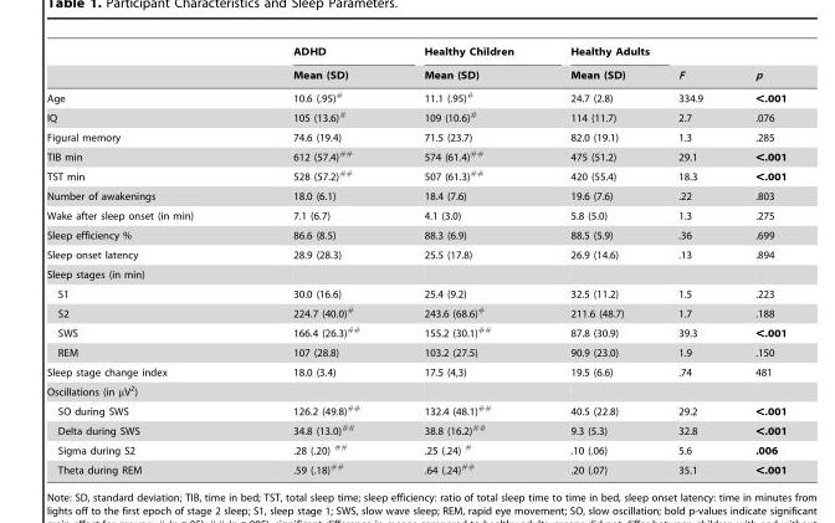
<table><thead><tr><td rowspan="2"></td><td rowspan="2">ADHD Mean (SD)</td><td rowspan="2">Healthy Children Mean (SD)</td><td rowspan="2">Healthy Adults Mean (SD)</td><td rowspan="2">F</td><td rowspan="2">p</td></tr><tr></tr></thead><tbody><tr><td>Age</td><td>10.6 (.95)<sup>#</sup></td><td>11.1 (.95)<sup>#</sup></td><td>24.7 (2.8)</td><td>334.9</td><td>&lt;.001</td></tr><tr><td>IQ</td><td>105 (13.6)<sup>#</sup></td><td>109 (10.6)<sup>#</sup></td><td>114 (11.7)</td><td>2.7</td><td>.076</td></tr><tr><td>Figural memory</td><td>74.6 (19.4)</td><td>71.5 (23.7)</td><td>82.0 (19.1)</td><td>1.3</td><td>.285</td></tr><tr><td>TIB min</td><td>612 (57.4)<sup>##</sup></td><td>574 (61.4)<sup>##</sup></td><td>475 (51.2)</td><td>29.1</td><td>&lt;.001</td></tr><tr><td>TST min</td><td>528 (57.2)<sup>##</sup></td><td>507 (61.3)<sup>##</sup></td><td>420 (55.4)</td><td>18.3</td><td>&lt;.001</td></tr><tr><td>Number of awakenings</td><td>18.0 (6.1)</td><td>18.4 (7.6)</td><td>19.6 (7.6)</td><td>.22</td><td>.803</td></tr><tr><td>Wake after sleep onset (in min)</td><td>7.1 (6.7)</td><td>4.1 (3.0)</td><td>5.8 (5.0)</td><td>1.3</td><td>.275</td></tr><tr><td>Sleep efficiency %</td><td>86.6 (8.5)</td><td>88.3 (6.9)</td><td>88.5 (5.9)</td><td>.36</td><td>.699</td></tr><tr><td>Sleep onset latency</td><td>28.9 (28.3)</td><td>25.5 (17.8)</td><td>26.9 (14.6)</td><td>.13</td><td>.894</td></tr><tr><td colspan="6">Sleep stages (in min)</td></tr><tr><td>S1</td><td>30.0 (16.6)</td><td>25.4 (9.2)</td><td>32.5 (11.2)</td><td>1.5</td><td>.223</td></tr><tr><td>S2</td><td>224.7 (40.0)<sup>#</sup></td><td>243.6 (68.6)<sup>#</sup></td><td>211.6 (48.7)</td><td>1.7</td><td>.188</td></tr><tr><td>SWS</td><td>166.4 (26.3)<sup>##</sup></td><td>155.2 (30.1)<sup>##</sup></td><td>87.8 (30.9)</td><td>39.3</td><td>&lt;.001</td></tr><tr><td>REM</td><td>107 (28.8)</td><td>103.2 (27.5)</td><td>90.9 (23.0)</td><td>1.9</td><td>.150</td></tr><tr><td>Sleep stage change index</td><td>18.0 (3.4)</td><td>17.5 (4,3)</td><td>19.5 (6.6)</td><td>.74</td><td>481</td></tr><tr><td colspan="6">Oscillations (in μV<sup>2</sup>)</td></tr><tr><td>SO during SWS</td><td>126.2 (49.8)<sup>##</sup></td><td>132.4 (48.1)<sup>##</sup></td><td>40.5 (22.8)</td><td>29.2</td><td>&lt;.001</td></tr><tr><td>Delta during SWS</td><td>34.8 (13.0)<sup>##</sup></td><td>38.8 (16.2)<sup>##</sup></td><td>9.3 (5.3)</td><td>32.8</td><td>&lt;.001</td></tr><tr><td>Sigma during S2</td><td>.28 (.20) <sup>##</sup></td><td>.25 (.24) <sup>#</sup></td><td>.10 (.06)</td><td>5.6</td><td>.006</td></tr><tr><td>Theta during REM</td><td>.59 (.18)<sup>##</sup></td><td>.64 (.24)<sup>##</sup></td><td>.20 (.07)</td><td>35.1</td><td>&lt;.001</td></tr></tbody></table>